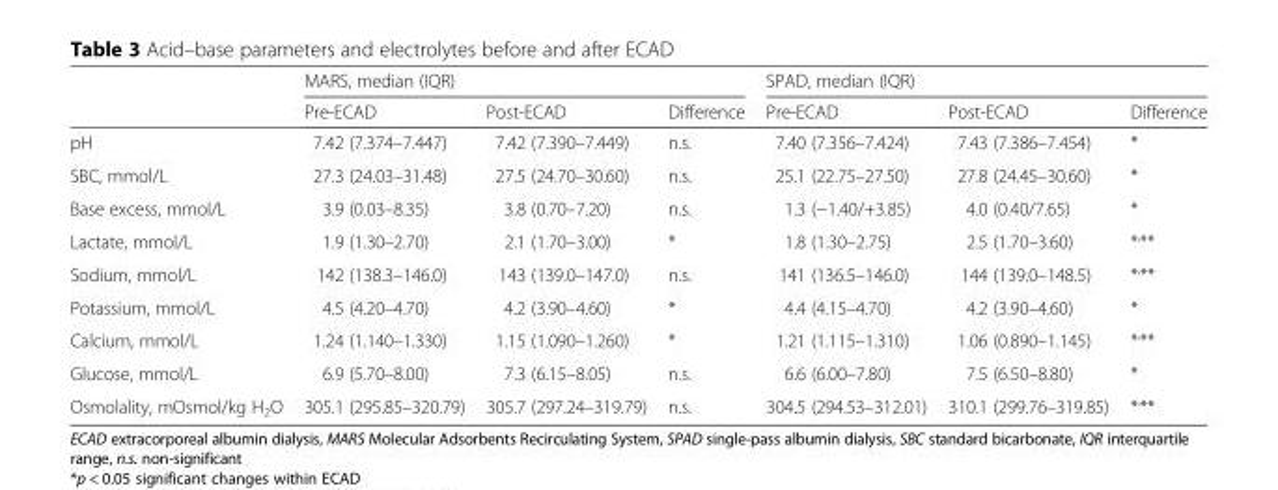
<table><thead><tr><td rowspan="2"></td><td colspan="3">MARS, median (IQR)</td><td colspan="3">SPAD, median (IQR)</td></tr><tr><td>Pre-ECAD</td><td>Post-ECAD</td><td>Difference</td><td>Pre-ECAD</td><td>Post-ECAD</td><td>Difference</td></tr></thead><tbody><tr><td>pH</td><td>7.42 (7.374–7.447)</td><td>7.42 (7.390–7.449)</td><td>n.s.</td><td>7.40 (7.356–7.424)</td><td>7.43 (7.386–7.454)</td><td>*</td></tr><tr><td>SBC, mmol/L</td><td>27.3 (24.03–31.48)</td><td>27.5 (24.70–30.60)</td><td>n.s.</td><td>25.1 (22.75–27.50)</td><td>27.8 (24.45–30.60)</td><td>*</td></tr><tr><td>Base excess, mmol/L</td><td>3.9 (0.03–8.35)</td><td>3.8 (0.70–7.20)</td><td>n.s.</td><td>1.3 (−1.40/+3.85)</td><td>4.0 (0.40/7.65)</td><td>*</td></tr><tr><td>Lactate, mmol/L</td><td>1.9 (1.30–2.70)</td><td>2.1 (1.70–3.00)</td><td>*</td><td>1.8 (1.30–2.75)</td><td>2.5 (1.70–3.60)</td><td>*<sup>,</sup>**</td></tr><tr><td>Sodium, mmol/L</td><td>142 (138.3–146.0)</td><td>143 (139.0–147.0)</td><td>n.s.</td><td>141 (136.5–146.0)</td><td>144 (139.0–148.5)</td><td>*<sup>,</sup>**</td></tr><tr><td>Potassium, mmol/L</td><td>4.5 (4.20–4.70)</td><td>4.2 (3.90–4.60)</td><td>*</td><td>4.4 (4.15–4.70)</td><td>4.2 (3.90–4.60)</td><td>*</td></tr><tr><td>Calcium, mmol/L</td><td>1.24 (1.140–1.330)</td><td>1.15 (1.090–1.260)</td><td>*</td><td>1.21 (1.115–1.310)</td><td>1.06 (0.890–1.145)</td><td>*<sup>,</sup>**</td></tr><tr><td>Glucose, mmol/L</td><td>6.9 (5.70–8.00)</td><td>7.3 (6.15–8.05)</td><td>n.s.</td><td>6.6 (6.00–7.80)</td><td>7.5 (6.50–8.80)</td><td>*</td></tr><tr><td>Osmolality, mOsmol/kg H<sub>2</sub>O</td><td>305.1 (295.85–320.79)</td><td>305.7 (297.24–319.79)</td><td>n.s.</td><td>304.5 (294.53–312.01)</td><td>310.1 (299.76–319.85)</td><td>*<sup>,</sup>**</td></tr></tbody></table>